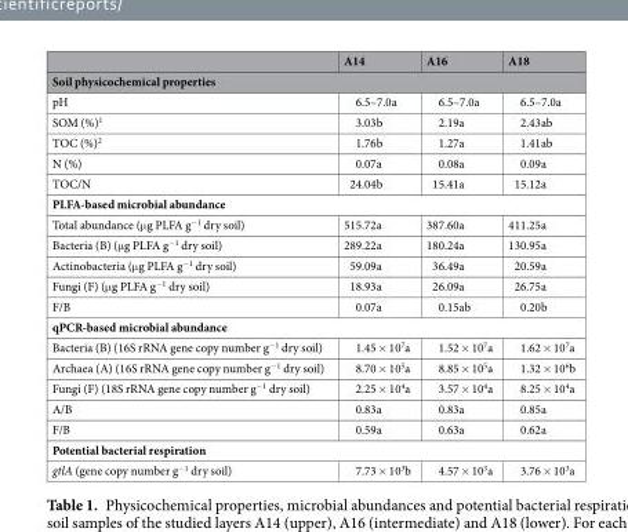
<table><thead><tr><td></td><td>A14</td><td>A16</td><td>A18</td></tr><tr><td colspan="4">Soil physicochemical properties</td></tr></thead><tbody><tr><td>pH</td><td>6.5–7.0a</td><td>6.5–7.0a</td><td>6.5–7.0a</td></tr><tr><td>SOM (%)<sup>1</sup></td><td>3.03b</td><td>2.19a</td><td>2.43ab</td></tr><tr><td>TOC (%)<sup>2</sup></td><td>1.76b</td><td>1.27a</td><td>1.41ab</td></tr><tr><td>N (%)</td><td>0.07a</td><td>0.08a</td><td>0.09a</td></tr><tr><td>TOC/N</td><td>24.04b</td><td>15.41a</td><td>15.12a</td></tr><tr><td colspan="4">PLFA-based microbial abundance</td></tr><tr><td>Total abundance (μg PLFA g<sup>−1</sup> dry soil)</td><td>515.72a</td><td>387.60a</td><td>411.25a</td></tr><tr><td>Bacteria (B) (μg PLFA g<sup>−1</sup> dry soil)</td><td>289.22a</td><td>180.24a</td><td>130.95a</td></tr><tr><td>Actinobacteria (μg PLFA g<sup>−1</sup> dry soil)</td><td>59.09a</td><td>36.49a</td><td>20.59a</td></tr><tr><td>Fungi (F) (μg PLFA g<sup>−1</sup> dry soil)</td><td>18.93a</td><td>26.09a</td><td>26.75a</td></tr><tr><td>F/B</td><td>0.07a</td><td>0.15ab</td><td>0.20b</td></tr><tr><td colspan="4">qPCR-based microbial abundance</td></tr><tr><td>Bacteria (B) (16S rRNA gene copy number g<sup>−1</sup> dry soil)</td><td>1.45 × 10<sup>7</sup>a</td><td>1.52 × 10<sup>7</sup>a</td><td>1.62 × 10<sup>7</sup>a</td></tr><tr><td>Archaea (A) (16S rRNA gene copy number g<sup>−1</sup> dry soil)</td><td>8.70 × 10<sup>5</sup>a</td><td>8.85 × 10<sup>5</sup>a</td><td>1.32 × 10<sup>6</sup>b</td></tr><tr><td>Fungi (F) (18S rRNA gene copy number g<sup>−1</sup> dry soil)</td><td>2.25 × 10<sup>4</sup>a</td><td>3.57 × 10<sup>4</sup>a</td><td>8.25 × 10<sup>4</sup>a</td></tr><tr><td>A/B</td><td>0.83a</td><td>0.83a</td><td>0.85a</td></tr><tr><td>F/B</td><td>0.59a</td><td>0.63a</td><td>0.62a</td></tr><tr><td colspan="4">Potential bacterial respiration</td></tr><tr><td>gtlA (gene copy number g<sup>−1</sup> dry soil)</td><td>7.73 × 10<sup>3</sup>b</td><td>4.57 × 10<sup>3</sup>a</td><td>3.76 × 10<sup>3</sup>a</td></tr></tbody></table>